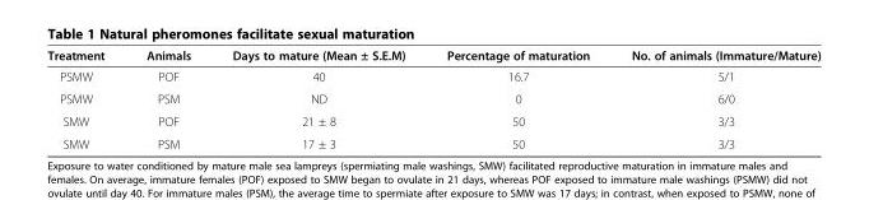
<table><thead><tr><td>Treatment</td><td>Animals</td><td>Days to mature (Mean ± S.E.M)</td><td>Percentage of maturation</td><td>No. of animals (Immature/Mature)</td></tr></thead><tbody><tr><td>PSMW</td><td>POF</td><td>40</td><td>16.7</td><td>5/1</td></tr><tr><td>PSMW</td><td>PSM</td><td>ND</td><td>0</td><td>6/0</td></tr><tr><td>SMW</td><td>POF</td><td>21 ± 8</td><td>50</td><td>3/3</td></tr><tr><td>SMW</td><td>PSM</td><td>17 ± 3</td><td>50</td><td>3/3</td></tr></tbody></table>